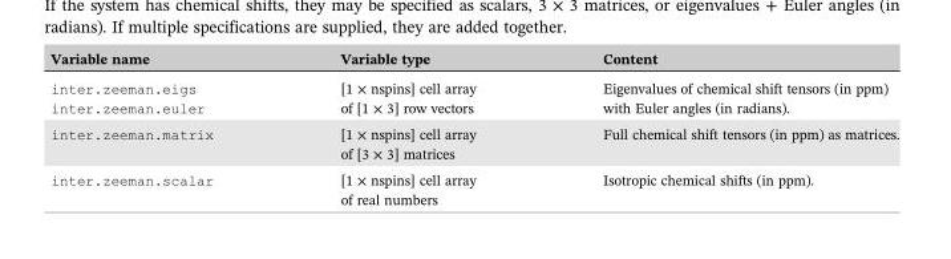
<table><thead><tr><td>Variable name</td><td>Variable type</td><td>Content</td></tr></thead><tbody><tr><td>inter.zeeman.eigs inter.zeeman.euler</td><td>[1 × nspins] cell array of [1 × 3] row vectors</td><td>Eigenvalues of chemical shift tensors (in ppm) with Euler angles (in radians).</td></tr><tr><td>inter.zeeman.matrix</td><td>[1 × nspins] cell array of [3 × 3] matrices</td><td>Full chemical shift tensors (in ppm) as matrices.</td></tr><tr><td>inter.zeeman.scalar</td><td>[1 × nspins] cell array of real numbers</td><td>Isotropic chemical shifts (in ppm).</td></tr></tbody></table>